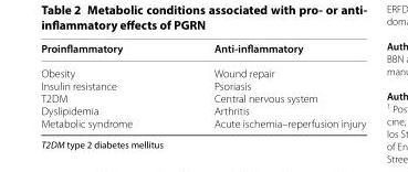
<table><thead><tr><td>Proinflammatory</td><td>Anti-inflammatory</td></tr></thead><tbody><tr><td>Obesity Insulin resistance T2DM Dyslipidemia Metabolic syndrome</td><td>Wound repair Psoriasis Central nervous system Arthritis Acute ischemia–reperfusion injury</td></tr></tbody></table>